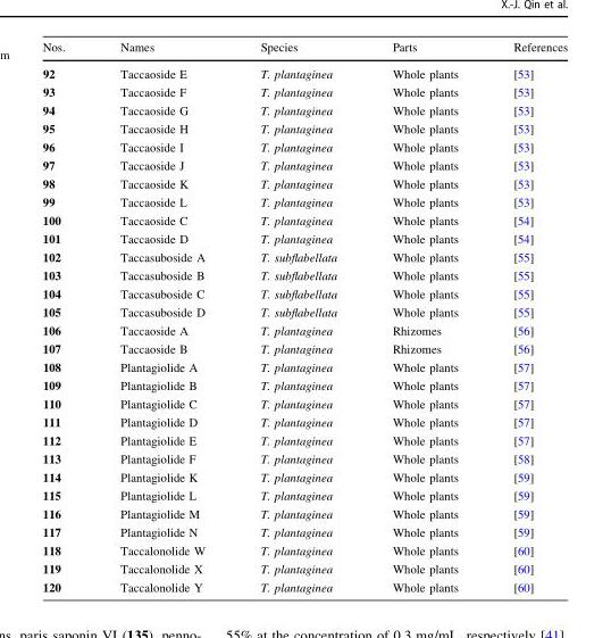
<table><thead><tr><td>Nos.</td><td>Names</td><td>Species</td><td>Parts</td><td>References</td></tr></thead><tbody><tr><td>92</td><td>Taccaoside E</td><td>T. plantaginea</td><td>Whole plants</td><td>[53]</td></tr><tr><td>93</td><td>Taccaoside F</td><td>T. plantaginea</td><td>Whole plants</td><td>[53]</td></tr><tr><td>94</td><td>Taccaoside G</td><td>T. plantaginea</td><td>Whole plants</td><td>[53]</td></tr><tr><td>95</td><td>Taccaoside H</td><td>T. plantaginea</td><td>Whole plants</td><td>[53]</td></tr><tr><td>96</td><td>Taccaoside I</td><td>T. plantaginea</td><td>Whole plants</td><td>[53]</td></tr><tr><td>97</td><td>Taccaoside J</td><td>T. plantaginea</td><td>Whole plants</td><td>[53]</td></tr><tr><td>98</td><td>Taccaoside K</td><td>T. plantaginea</td><td>Whole plants</td><td>[53]</td></tr><tr><td>99</td><td>Taccaoside L</td><td>T. plantaginea</td><td>Whole plants</td><td>[53]</td></tr><tr><td>100</td><td>Taccaoside C</td><td>T. plantaginea</td><td>Whole plants</td><td>[54]</td></tr><tr><td>101</td><td>Taccaoside D</td><td>T. plantaginea</td><td>Whole plants</td><td>[54]</td></tr><tr><td>102</td><td>Taccasuboside A</td><td>T. subflabellata</td><td>Whole plants</td><td>[55]</td></tr><tr><td>103</td><td>Taccasuboside B</td><td>T. subflabellata</td><td>Whole plants</td><td>[55]</td></tr><tr><td>104</td><td>Taccasuboside C</td><td>T. subflabellata</td><td>Whole plants</td><td>[55]</td></tr><tr><td>105</td><td>Taccasuboside D</td><td>T. subflabellata</td><td>Whole plants</td><td>[55]</td></tr><tr><td>106</td><td>Taccaoside A</td><td>T. plantaginea</td><td>Rhizomes</td><td>[56]</td></tr><tr><td>107</td><td>Taccaoside B</td><td>T. plantaginea</td><td>Rhizomes</td><td>[56]</td></tr><tr><td>108</td><td>Plantagiolide A</td><td>T. plantaginea</td><td>Whole plants</td><td>[57]</td></tr><tr><td>109</td><td>Plantagiolide B</td><td>T. plantaginea</td><td>Whole plants</td><td>[57]</td></tr><tr><td>110</td><td>Plantagiolide C</td><td>T. plantaginea</td><td>Whole plants</td><td>[57]</td></tr><tr><td>111</td><td>Plantagiolide D</td><td>T. plantaginea</td><td>Whole plants</td><td>[57]</td></tr><tr><td>112</td><td>Plantagiolide E</td><td>T. plantaginea</td><td>Whole plants</td><td>[57]</td></tr><tr><td>113</td><td>Plantagiolide F</td><td>T. plantaginea</td><td>Whole plants</td><td>[58]</td></tr><tr><td>114</td><td>Plantagiolide K</td><td>T. plantaginea</td><td>Whole plants</td><td>[59]</td></tr><tr><td>115</td><td>Plantagiolide L</td><td>T. plantaginea</td><td>Whole plants</td><td>[59]</td></tr><tr><td>116</td><td>Plantagiolide M</td><td>T. plantaginea</td><td>Whole plants</td><td>[59]</td></tr><tr><td>117</td><td>Plantagiolide N</td><td>T. plantaginea</td><td>Whole plants</td><td>[59]</td></tr><tr><td>118</td><td>Taccalonolide W</td><td>T. plantaginea</td><td>Whole plants</td><td>[60]</td></tr><tr><td>119</td><td>Taccalonolide X</td><td>T. plantaginea</td><td>Whole plants</td><td>[60]</td></tr><tr><td>120</td><td>Taccalonolide Y</td><td>T. plantaginea</td><td>Whole plants</td><td>[60]</td></tr></tbody></table>